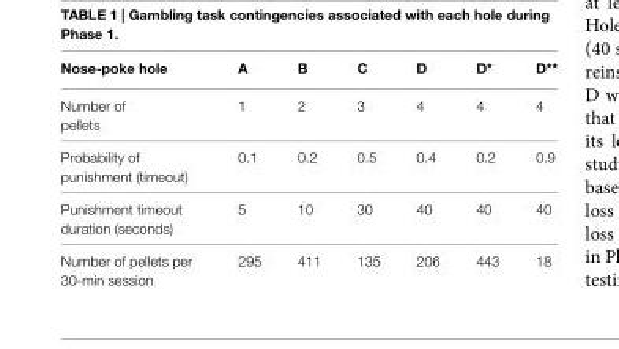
<table><thead><tr><td>Nose-poke hole</td><td>A</td><td>B</td><td>C</td><td>D</td><td>D*</td><td>D**</td></tr></thead><tbody><tr><td>Number of pellets</td><td>1</td><td>2</td><td>3</td><td>4</td><td>4</td><td>4</td></tr><tr><td>Probability of punishment (timeout)</td><td>0.1</td><td>0.2</td><td>0.5</td><td>0.4</td><td>0.2</td><td>0.9</td></tr><tr><td>Punishment timeout duration (seconds)</td><td>5</td><td>10</td><td>30</td><td>40</td><td>40</td><td>40</td></tr><tr><td>Number of pellets per 30-min session</td><td>295</td><td>411</td><td>135</td><td>206</td><td>443</td><td>18</td></tr></tbody></table>